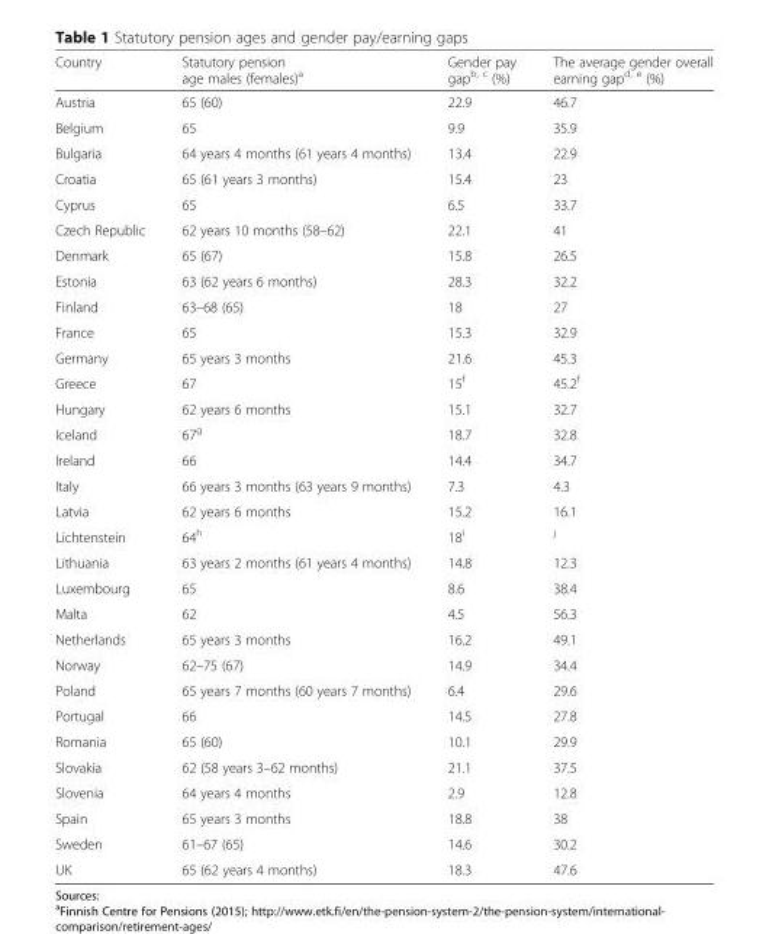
<table><thead><tr><td>Country</td><td>Statutory pension age males (females)<sup>a</sup></td><td>Gender pay gap<sup>b, c</sup> (%)</td><td>The average gender overall earning gap<sup>d, e</sup> (%)</td></tr></thead><tbody><tr><td>Austria</td><td>65 (60)</td><td>22.9</td><td>46.7</td></tr><tr><td>Belgium</td><td>65</td><td>9.9</td><td>35.9</td></tr><tr><td>Bulgaria</td><td>64 years 4 months (61 years 4 months)</td><td>13.4</td><td>22.9</td></tr><tr><td>Croatia</td><td>65 (61 years 3 months)</td><td>15.4</td><td>23</td></tr><tr><td>Cyprus</td><td>65</td><td>6.5</td><td>33.7</td></tr><tr><td>Czech Republic</td><td>62 years 10 months (58–62)</td><td>22.1</td><td>41</td></tr><tr><td>Denmark</td><td>65 (67)</td><td>15.8</td><td>26.5</td></tr><tr><td>Estonia</td><td>63 (62 years 6 months)</td><td>28.3</td><td>32.2</td></tr><tr><td>Finland</td><td>63–68 (65)</td><td>18</td><td>27</td></tr><tr><td>France</td><td>65</td><td>15.3</td><td>32.9</td></tr><tr><td>Germany</td><td>65 years 3 months</td><td>21.6</td><td>45.3</td></tr><tr><td>Greece</td><td>67</td><td>15<sup>f</sup></td><td>45.2<sup>f</sup></td></tr><tr><td>Hungary</td><td>62 years 6 months</td><td>15.1</td><td>32.7</td></tr><tr><td>Iceland</td><td>67<sup>g</sup></td><td>18.7</td><td>32.8</td></tr><tr><td>Ireland</td><td>66</td><td>14.4</td><td>34.7</td></tr><tr><td>Italy</td><td>66 years 3 months (63 years 9 months)</td><td>7.3</td><td>4.3</td></tr><tr><td>Latvia</td><td>62 years 6 months</td><td>15.2</td><td>16.1</td></tr><tr><td>Lichtenstein</td><td>64<sup>h</sup></td><td>18<sup>i</sup></td><td><sup>j</sup></td></tr><tr><td>Lithuania</td><td>63 years 2 months (61 years 4 months)</td><td>14.8</td><td>12.3</td></tr><tr><td>Luxembourg</td><td>65</td><td>8.6</td><td>38.4</td></tr><tr><td>Malta</td><td>62</td><td>4.5</td><td>56.3</td></tr><tr><td>Netherlands</td><td>65 years 3 months</td><td>16.2</td><td>49.1</td></tr><tr><td>Norway</td><td>62–75 (67)</td><td>14.9</td><td>34.4</td></tr><tr><td>Poland</td><td>65 years 7 months (60 years 7 months)</td><td>6.4</td><td>29.6</td></tr><tr><td>Portugal</td><td>66</td><td>14.5</td><td>27.8</td></tr><tr><td>Romania</td><td>65 (60)</td><td>10.1</td><td>29.9</td></tr><tr><td>Slovakia</td><td>62 (58 years 3–62 months)</td><td>21.1</td><td>37.5</td></tr><tr><td>Slovenia</td><td>64 years 4 months</td><td>2.9</td><td>12.8</td></tr><tr><td>Spain</td><td>65 years 3 months</td><td>18.8</td><td>38</td></tr><tr><td>Sweden</td><td>61–67 (65)</td><td>14.6</td><td>30.2</td></tr><tr><td>UK</td><td>65 (62 years 4 months)</td><td>18.3</td><td>47.6</td></tr></tbody></table>